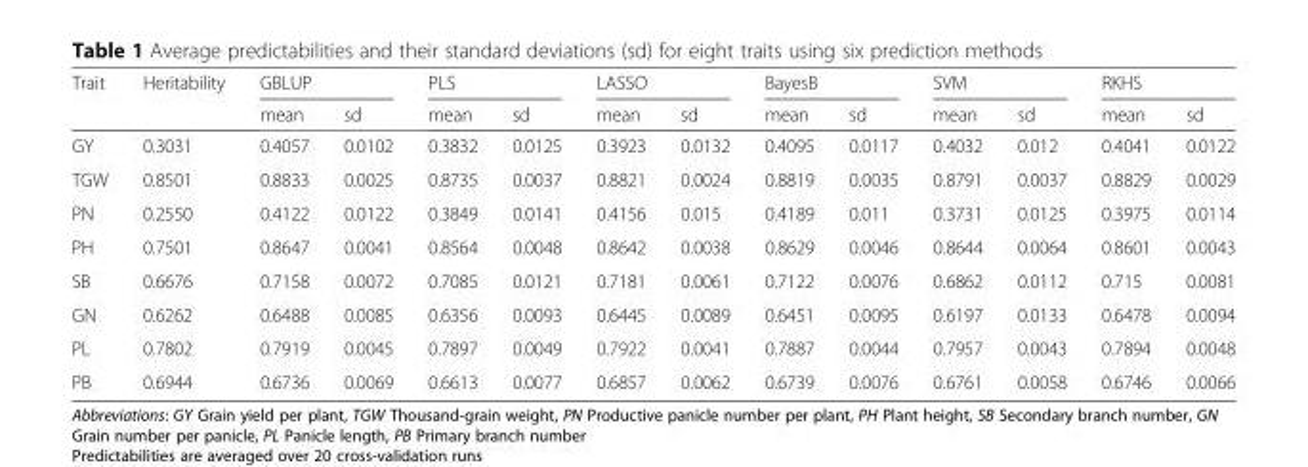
<table><thead><tr><td rowspan="2">Trait</td><td rowspan="2">Heritability</td><td colspan="2">GBLUP</td><td colspan="2">PLS</td><td colspan="2">LASSO</td><td colspan="2">BayesB</td><td colspan="2">SVM</td><td colspan="2">RKHS</td></tr><tr><td>mean</td><td>sd</td><td>mean</td><td>sd</td><td>mean</td><td>sd</td><td>mean</td><td>sd</td><td>mean</td><td>sd</td><td>mean</td><td>sd</td></tr></thead><tbody><tr><td>GY</td><td>0.3031</td><td>0.4057</td><td>0.0102</td><td>0.3832</td><td>0.0125</td><td>0.3923</td><td>0.0132</td><td>0.4095</td><td>0.0117</td><td>0.4032</td><td>0.012</td><td>0.4041</td><td>0.0122</td></tr><tr><td>TGW</td><td>0.8501</td><td>0.8833</td><td>0.0025</td><td>0.8735</td><td>0.0037</td><td>0.8821</td><td>0.0024</td><td>0.8819</td><td>0.0035</td><td>0.8791</td><td>0.0037</td><td>0.8829</td><td>0.0029</td></tr><tr><td>PN</td><td>0.2550</td><td>0.4122</td><td>0.0122</td><td>0.3849</td><td>0.0141</td><td>0.4156</td><td>0.015</td><td>0.4189</td><td>0.011</td><td>0.3731</td><td>0.0125</td><td>0.3975</td><td>0.0114</td></tr><tr><td>PH</td><td>0.7501</td><td>0.8647</td><td>0.0041</td><td>0.8564</td><td>0.0048</td><td>0.8642</td><td>0.0038</td><td>0.8629</td><td>0.0046</td><td>0.8644</td><td>0.0064</td><td>0.8601</td><td>0.0043</td></tr><tr><td>SB</td><td>0.6676</td><td>0.7158</td><td>0.0072</td><td>0.7085</td><td>0.0121</td><td>0.7181</td><td>0.0061</td><td>0.7122</td><td>0.0076</td><td>0.6862</td><td>0.0112</td><td>0.715</td><td>0.0081</td></tr><tr><td>GN</td><td>0.6262</td><td>0.6488</td><td>0.0085</td><td>0.6356</td><td>0.0093</td><td>0.6445</td><td>0.0089</td><td>0.6451</td><td>0.0095</td><td>0.6197</td><td>0.0133</td><td>0.6478</td><td>0.0094</td></tr><tr><td>PL</td><td>0.7802</td><td>0.7919</td><td>0.0045</td><td>0.7897</td><td>0.0049</td><td>0.7922</td><td>0.0041</td><td>0.7887</td><td>0.0044</td><td>0.7957</td><td>0.0043</td><td>0.7894</td><td>0.0048</td></tr><tr><td>PB</td><td>0.6944</td><td>0.6736</td><td>0.0069</td><td>0.6613</td><td>0.0077</td><td>0.6857</td><td>0.0062</td><td>0.6739</td><td>0.0076</td><td>0.6761</td><td>0.0058</td><td>0.6746</td><td>0.0066</td></tr></tbody></table>